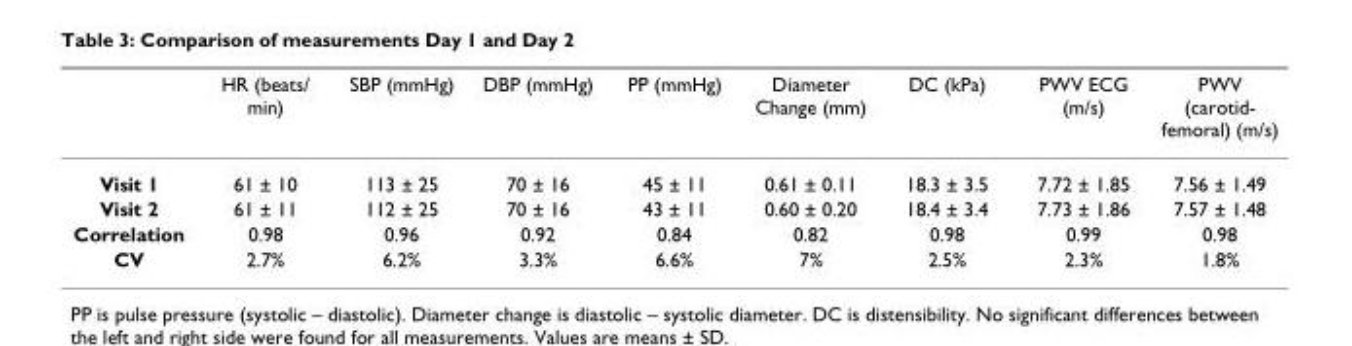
<table><thead><tr><td></td><td>HR (beats/ min)</td><td>SBP (mmHg)</td><td>DBP (mmHg)</td><td>PP (mmHg)</td><td>Diameter Change (mm)</td><td>DC (kPa)</td><td>PWV ECG (m/s)</td><td>PWV (carotid- femoral) (m/s)</td></tr></thead><tbody><tr><td>Visit 1</td><td>61 ± 10</td><td>113 ± 25</td><td>70 ± 16</td><td>45 ± 11</td><td>0.61 ± 0.11</td><td>18.3 ± 3.5</td><td>7.72 ± 1.85</td><td>7.56 ± 1.49</td></tr><tr><td>Visit 2</td><td>61 ± 11</td><td>112 ± 25</td><td>70 ± 16</td><td>43 ± 11</td><td>0.60 ± 0.20</td><td>18.4 ± 3.4</td><td>7.73 ± 1.86</td><td>7.57 ± 1.48</td></tr><tr><td>Correlation</td><td>0.98</td><td>0.96</td><td>0.92</td><td>0.84</td><td>0.82</td><td>0.98</td><td>0.99</td><td>0.98</td></tr><tr><td>CV</td><td>2.7%</td><td>6.2%</td><td>3.3%</td><td>6.6%</td><td>7%</td><td>2.5%</td><td>2.3%</td><td>1.8%</td></tr></tbody></table>